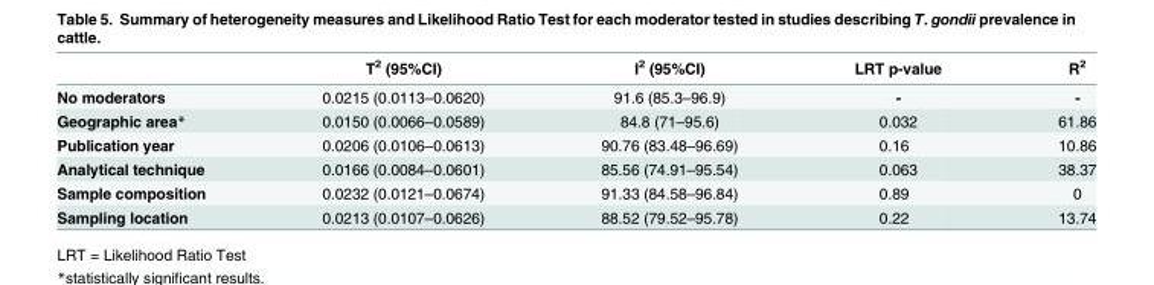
<table><thead><tr><td></td><td>T<sup>2</sup> (95%CI)</td><td>I<sup>2</sup> (95%CI)</td><td>LRT p-value</td><td>R<sup>2</sup></td></tr></thead><tbody><tr><td>No moderators</td><td>0.0215 (0.0113–0.0620)</td><td>91.6 (85.3–96.9)</td><td>-</td><td>-</td></tr><tr><td>Geographic area*</td><td>0.0150 (0.0066–0.0589)</td><td>84.8 (71–95.6)</td><td>0.032</td><td>61.86</td></tr><tr><td>Publication year</td><td>0.0206 (0.0106–0.0613)</td><td>90.76 (83.48–96.69)</td><td>0.16</td><td>10.86</td></tr><tr><td>Analytical technique</td><td>0.0166 (0.0084–0.0601)</td><td>85.56 (74.91–95.54)</td><td>0.063</td><td>38.37</td></tr><tr><td>Sample composition</td><td>0.0232 (0.0121–0.0674)</td><td>91.33 (84.58–96.84)</td><td>0.89</td><td>0</td></tr><tr><td>Sampling location</td><td>0.0213 (0.0107–0.0626)</td><td>88.52 (79.52–95.78)</td><td>0.22</td><td>13.74</td></tr></tbody></table>